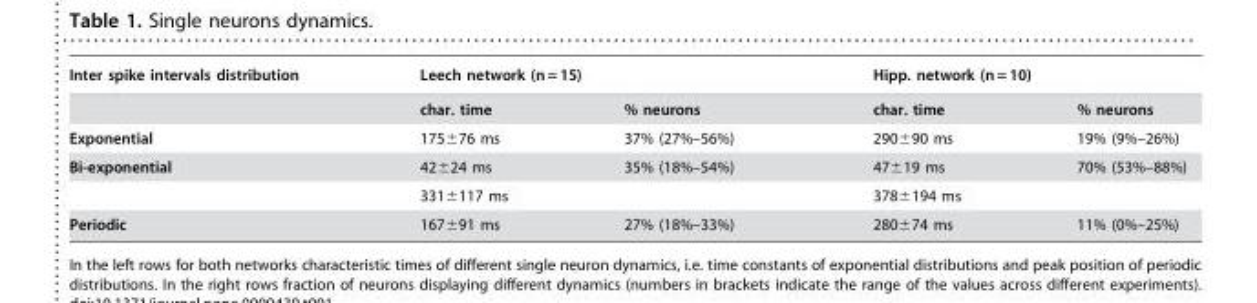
<table><thead><tr><td rowspan="2">Inter spike intervals distribution</td><td colspan="2">Leech network (n = 15)</td><td colspan="2">Hipp. network (n = 10)</td></tr><tr><td>char. time</td><td>% neurons</td><td>char. time</td><td>% neurons</td></tr></thead><tbody><tr><td>Exponential</td><td>175±76 ms</td><td>37% (27%–56%)</td><td>290±90 ms</td><td>19% (9%–26%)</td></tr><tr><td rowspan="2">Bi-exponential</td><td>42±24 ms</td><td>35% (18%–54%)</td><td>47±19 ms</td><td>70% (53%–88%)</td></tr><tr><td>331±117 ms</td><td></td><td>378±194 ms</td><td></td></tr><tr><td>Periodic</td><td>167±91 ms</td><td>27% (18%–33%)</td><td>280±74 ms</td><td>11% (0%–25%)</td></tr></tbody></table>